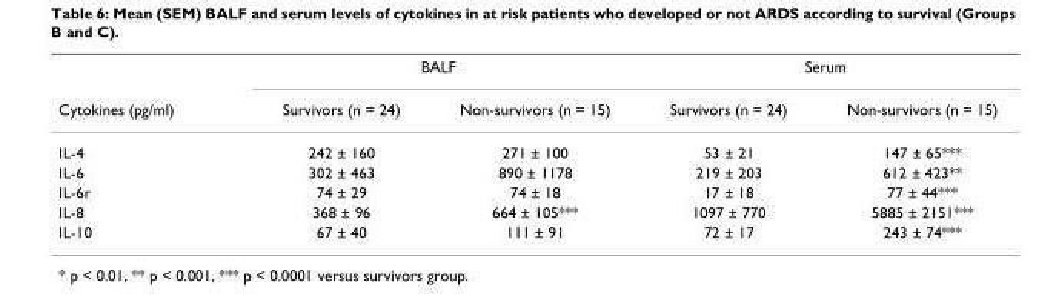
<table><thead><tr><td rowspan="2">Cytokines (pg/ml)</td><td colspan="2">BALF</td><td colspan="2">Serum</td></tr><tr><td>Survivors (n = 24)</td><td>Non-survivors (n = 15)</td><td>Survivors (n = 24)</td><td>Non-survivors (n = 15)</td></tr></thead><tbody><tr><td>IL-4</td><td>242 ± 160</td><td>271 ± 100</td><td>53 ± 21</td><td>147 ± 65***</td></tr><tr><td>IL-6</td><td>302 ± 463</td><td>890 ± 1178</td><td>219 ± 203</td><td>612 ± 423**</td></tr><tr><td>IL-6r</td><td>74 ± 29</td><td>74 ± 18</td><td>17 ± 18</td><td>77 ± 44***</td></tr><tr><td>IL-8</td><td>368 ± 96</td><td>664 ± 105***</td><td>1097 ± 770</td><td>5885 ± 2151***</td></tr><tr><td>IL-10</td><td>67 ± 40</td><td>111 ± 91</td><td>72 ± 17</td><td>243 ± 74***</td></tr></tbody></table>